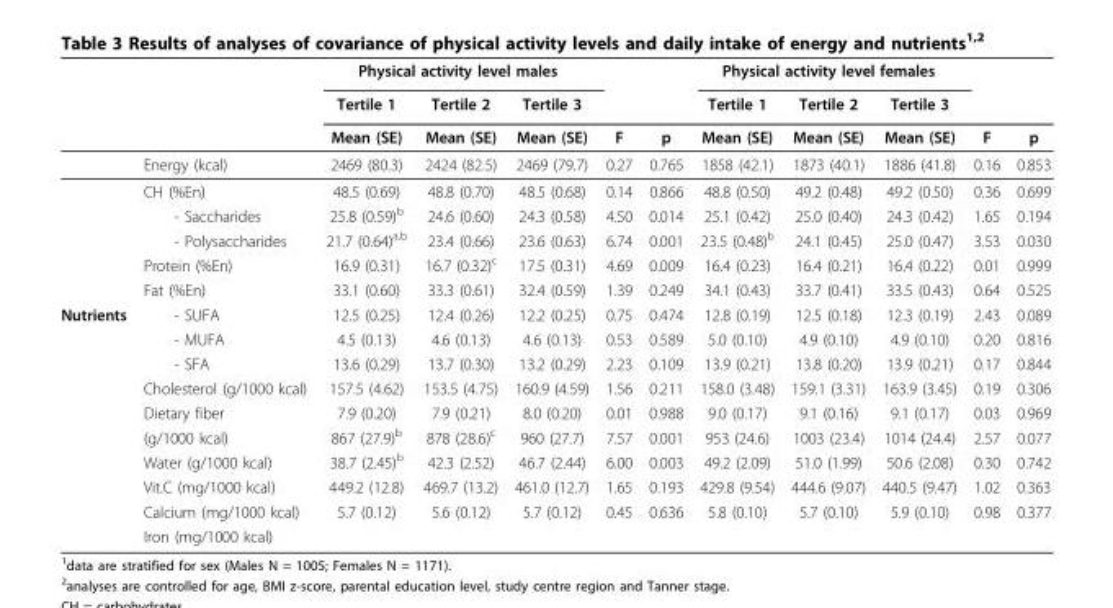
<table><thead><tr><td rowspan="3"></td><td rowspan="3"></td><td colspan="3">Physical activity level males</td><td rowspan="3">F</td><td rowspan="3">p</td><td colspan="3">Physical activity level females</td><td rowspan="3">F</td><td rowspan="3">p</td></tr><tr><td rowspan="2">Tertile 1 Mean (SE)</td><td rowspan="2">Tertile 2 Mean (SE)</td><td rowspan="2">Tertile 3 Mean (SE)</td><td rowspan="2">Tertile 1 Mean (SE)</td><td rowspan="2">Tertile 2 Mean (SE)</td><td rowspan="2">Tertile 3 Mean (SE)</td></tr><tr></tr></thead><tbody><tr><td></td><td>Energy (kcal)</td><td>2469 (80.3)</td><td>2424 (82.5)</td><td>2469 (79.7)</td><td>0.27</td><td>0.765</td><td>1858 (42.1)</td><td>1873 (40.1)</td><td>1886 (41.8)</td><td>0.16</td><td>0.853</td></tr><tr><td></td><td>CH (%En)</td><td>48.5 (0.69)</td><td>48.8 (0.70)</td><td>48.5 (0.68)</td><td>0.14</td><td>0.866</td><td>48.8 (0.50)</td><td>49.2 (0.48)</td><td>49.2 (0.50)</td><td>0.36</td><td>0.699</td></tr><tr><td></td><td>- Saccharides</td><td>25.8 (0.59)<sup>b</sup></td><td>24.6 (0.60)</td><td>24.3 (0.58)</td><td>4.50</td><td>0.014</td><td>25.1 (0.42)</td><td>25.0 (0.40)</td><td>24.3 (0.42)</td><td>1.65</td><td>0.194</td></tr><tr><td></td><td>- Polysaccharides</td><td>21.7 (0.64)<sup>a,b</sup></td><td>23.4 (0.66)</td><td>23.6 (0.63)</td><td>6.74</td><td>0.001</td><td>23.5 (0.48)<sup>b</sup></td><td>24.1 (0.45)</td><td>25.0 (0.47)</td><td>3.53</td><td>0.030</td></tr><tr><td></td><td>Protein (%En)</td><td>16.9 (0.31)</td><td>16.7 (0.32)<sup>c</sup></td><td>17.5 (0.31)</td><td>4.69</td><td>0.009</td><td>16.4 (0.23)</td><td>16.4 (0.21)</td><td>16.4 (0.22)</td><td>0.01</td><td>0.999</td></tr><tr><td></td><td>Fat (%En)</td><td>33.1 (0.60)</td><td>33.3 (0.61)</td><td>32.4 (0.59)</td><td>1.39</td><td>0.249</td><td>34.1 (0.43)</td><td>33.7 (0.41)</td><td>33.5 (0.43)</td><td>0.64</td><td>0.525</td></tr><tr><td rowspan="10">Nutrients</td><td>- SUFA</td><td>12.5 (0.25)</td><td>12.4 (0.26)</td><td>12.2 (0.25)</td><td>0.75</td><td>0.474</td><td>12.8 (0.19)</td><td>12.5 (0.18)</td><td>12.3 (0.19)</td><td>2.43</td><td>0.089</td></tr><tr><td>- MUFA</td><td>4.5 (0.13)</td><td>4.6 (0.13)</td><td>4.6 (0.13)</td><td>0.53</td><td>0.589</td><td>5.0 (0.10)</td><td>4.9 (0.10)</td><td>4.9 (0.10)</td><td>0.20</td><td>0.816</td></tr><tr><td>- SFA</td><td>13.6 (0.29)</td><td>13.7 (0.30)</td><td>13.2 (0.29)</td><td>2.23</td><td>0.109</td><td>13.9 (0.21)</td><td>13.8 (0.20)</td><td>13.9 (0.21)</td><td>0.17</td><td>0.844</td></tr><tr><td>Cholesterol (g/1000 kcal)</td><td>157.5 (4.62)</td><td>153.5 (4.75)</td><td>160.9 (4.59)</td><td>1.56</td><td>0.211</td><td>158.0 (3.48)</td><td>159.1 (3.31)</td><td>163.9 (3.45)</td><td>0.19</td><td>0.306</td></tr><tr><td>Dietary fiber</td><td>7.9 (0.20)</td><td>7.9 (0.21)</td><td>8.0 (0.20)</td><td>0.01</td><td>0.988</td><td>9.0 (0.17)</td><td>9.1 (0.16)</td><td>9.1 (0.17)</td><td>0.03</td><td>0.969</td></tr><tr><td>(g/1000 kcal)</td><td>867 (27.9)<sup>b</sup></td><td>878 (28.6)<sup>c</sup></td><td>960 (27.7)</td><td>7.57</td><td>0.001</td><td>953 (24.6)</td><td>1003 (23.4)</td><td>1014 (24.4)</td><td>2.57</td><td>0.077</td></tr><tr><td>Water (g/1000 kcal)</td><td>38.7 (2.45)<sup>b</sup></td><td>42.3 (2.52)</td><td>46.7 (2.44)</td><td>6.00</td><td>0.003</td><td>49.2 (2.09)</td><td>51.0 (1.99)</td><td>50.6 (2.08)</td><td>0.30</td><td>0.742</td></tr><tr><td>Vit.C (mg/1000 kcal)</td><td>449.2 (12.8)</td><td>469.7 (13.2)</td><td>461.0 (12.7)</td><td>1.65</td><td>0.193</td><td>429.8 (9.54)</td><td>444.6 (9.07)</td><td>440.5 (9.47)</td><td>1.02</td><td>0.363</td></tr><tr><td>Calcium (mg/1000 kcal)</td><td>5.7 (0.12)</td><td>5.6 (0.12)</td><td>5.7 (0.12)</td><td>0.45</td><td>0.636</td><td>5.8 (0.10)</td><td>5.7 (0.10)</td><td>5.9 (0.10)</td><td>0.98</td><td>0.377</td></tr><tr><td>Iron (mg/1000 kcal)</td><td></td><td></td><td></td><td></td><td></td><td></td><td></td><td></td><td></td><td></td></tr></tbody></table>